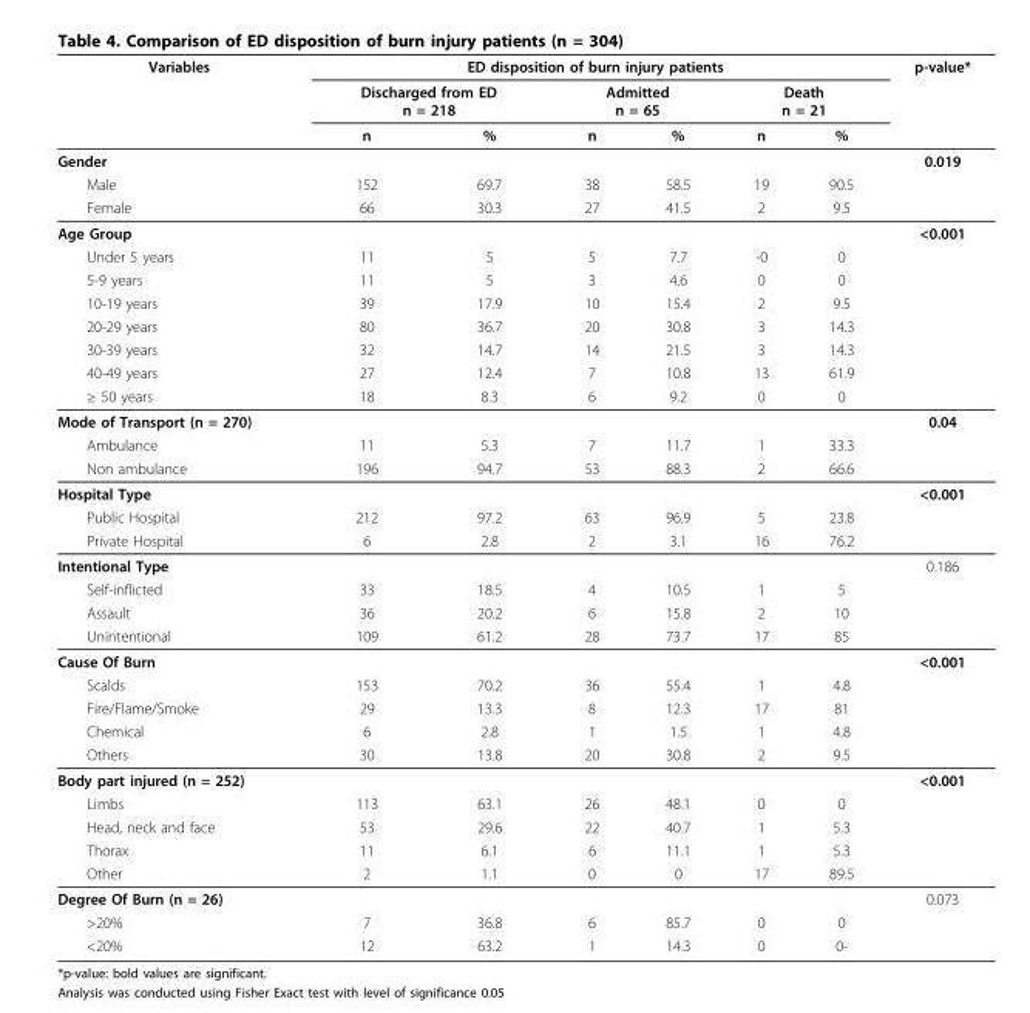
<table><thead><tr><td rowspan="3">Variables</td><td colspan="6">ED disposition of burn injury patients</td><td rowspan="3">p-value*</td></tr><tr><td colspan="2">Discharged from ED n = 218</td><td colspan="2">Admitted n = 65</td><td colspan="2">Death n = 21</td></tr><tr><td>n</td><td>%</td><td>n</td><td>%</td><td>n</td><td>%</td></tr></thead><tbody><tr><td>Gender</td><td></td><td></td><td></td><td></td><td></td><td></td><td>0.019</td></tr><tr><td>Male</td><td>152</td><td>69.7</td><td>38</td><td>58.5</td><td>19</td><td>90.5</td><td></td></tr><tr><td>Female</td><td>66</td><td>30.3</td><td>27</td><td>41.5</td><td>2</td><td>9.5</td><td></td></tr><tr><td>Age Group</td><td></td><td></td><td></td><td></td><td></td><td></td><td>&lt;0.001</td></tr><tr><td>Under 5 years</td><td>11</td><td>5</td><td>5</td><td>7.7</td><td>-0</td><td>0</td><td></td></tr><tr><td>5-9 years</td><td>11</td><td>5</td><td>3</td><td>4.6</td><td>0</td><td>0</td><td></td></tr><tr><td>10-19 years</td><td>39</td><td>17.9</td><td>10</td><td>15.4</td><td>2</td><td>9.5</td><td></td></tr><tr><td>20-29 years</td><td>80</td><td>36.7</td><td>20</td><td>30.8</td><td>3</td><td>14.3</td><td></td></tr><tr><td>30-39 years</td><td>32</td><td>14.7</td><td>14</td><td>21.5</td><td>3</td><td>14.3</td><td></td></tr><tr><td>40-49 years</td><td>27</td><td>12.4</td><td>7</td><td>10.8</td><td>13</td><td>61.9</td><td></td></tr><tr><td>≥ 50 years</td><td>18</td><td>8.3</td><td>6</td><td>9.2</td><td>0</td><td>0</td><td></td></tr><tr><td>Mode of Transport (n = 270)</td><td></td><td></td><td></td><td></td><td></td><td></td><td>0.04</td></tr><tr><td>Ambulance</td><td>11</td><td>5.3</td><td>7</td><td>11.7</td><td>1</td><td>33.3</td><td></td></tr><tr><td>Non ambulance</td><td>196</td><td>94.7</td><td>53</td><td>88.3</td><td>2</td><td>66.6</td><td></td></tr><tr><td>Hospital Type</td><td></td><td></td><td></td><td></td><td></td><td></td><td>&lt;0.001</td></tr><tr><td>Public Hospital</td><td>212</td><td>97.2</td><td>63</td><td>96.9</td><td>5</td><td>23.8</td><td></td></tr><tr><td>Private Hospital</td><td>6</td><td>2.8</td><td>2</td><td>3.1</td><td>16</td><td>76.2</td><td></td></tr><tr><td>Intentional Type</td><td></td><td></td><td></td><td></td><td></td><td></td><td>0.186</td></tr><tr><td>Self-inflicted</td><td>33</td><td>18.5</td><td>4</td><td>10.5</td><td>1</td><td>5</td><td></td></tr><tr><td>Assault</td><td>36</td><td>20.2</td><td>6</td><td>15.8</td><td>2</td><td>10</td><td></td></tr><tr><td>Unintentional</td><td>109</td><td>61.2</td><td>28</td><td>73.7</td><td>17</td><td>85</td><td></td></tr><tr><td>Cause Of Burn</td><td></td><td></td><td></td><td></td><td></td><td></td><td>&lt;0.001</td></tr><tr><td>Scalds</td><td>153</td><td>70.2</td><td>36</td><td>55.4</td><td>1</td><td>4.8</td><td></td></tr><tr><td>Fire/Flame/Smoke</td><td>29</td><td>13.3</td><td>8</td><td>12.3</td><td>17</td><td>81</td><td></td></tr><tr><td>Chemical</td><td>6</td><td>2.8</td><td>1</td><td>1.5</td><td>1</td><td>4.8</td><td></td></tr><tr><td>Others</td><td>30</td><td>13.8</td><td>20</td><td>30.8</td><td>2</td><td>9.5</td><td></td></tr><tr><td>Body part injured (n = 252)</td><td></td><td></td><td></td><td></td><td></td><td></td><td>&lt;0.001</td></tr><tr><td>Limbs</td><td>113</td><td>63.1</td><td>26</td><td>48.1</td><td>0</td><td>0</td><td></td></tr><tr><td>Head, neck and face</td><td>53</td><td>29.6</td><td>22</td><td>40.7</td><td>1</td><td>5.3</td><td></td></tr><tr><td>Thorax</td><td>11</td><td>6.1</td><td>6</td><td>11.1</td><td>1</td><td>5.3</td><td></td></tr><tr><td>Other</td><td>2</td><td>1.1</td><td>0</td><td>0</td><td>17</td><td>89.5</td><td></td></tr><tr><td>Degree Of Burn (n = 26)</td><td></td><td></td><td></td><td></td><td></td><td></td><td>0.073</td></tr><tr><td>&gt;20%</td><td>7</td><td>36.8</td><td>6</td><td>85.7</td><td>0</td><td>0</td><td></td></tr><tr><td>&lt;20%</td><td>12</td><td>63.2</td><td>1</td><td>14.3</td><td>0</td><td>0-</td><td></td></tr></tbody></table>